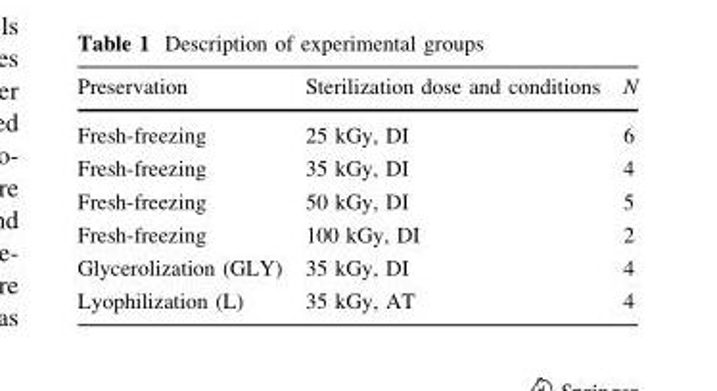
<table><thead><tr><td>Preservation</td><td>Sterilization dose and conditions</td><td>N</td></tr></thead><tbody><tr><td>Fresh-freezing</td><td>25 kGy, DI</td><td>6</td></tr><tr><td>Fresh-freezing</td><td>35 kGy, DI</td><td>4</td></tr><tr><td>Fresh-freezing</td><td>50 kGy, DI</td><td>5</td></tr><tr><td>Fresh-freezing</td><td>100 kGy, DI</td><td>2</td></tr><tr><td>Glycerolization (GLY)</td><td>35 kGy, DI</td><td>4</td></tr><tr><td>Lyophilization (L)</td><td>35 kGy, AT</td><td>4</td></tr></tbody></table>